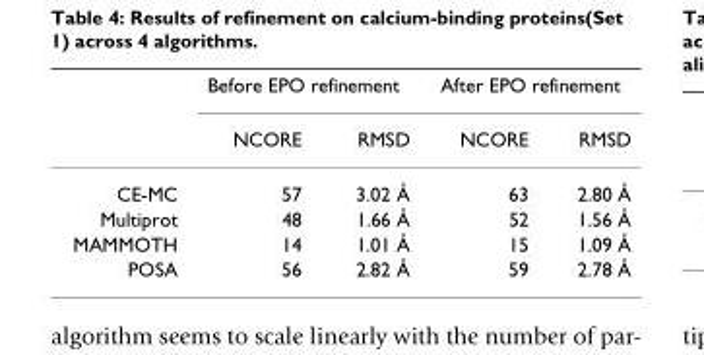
<table><thead><tr><td rowspan="2"></td><td colspan="2">Before EPO refinement</td><td colspan="2">After EPO refinement</td></tr><tr><td>NCORE</td><td>RMSD</td><td>NCORE</td><td>RMSD</td></tr></thead><tbody><tr><td>CE-MC</td><td>57</td><td>3.02 Å</td><td>63</td><td>2.80 Å</td></tr><tr><td>Multiprot</td><td>48</td><td>1.66 Å</td><td>52</td><td>1.56 Å</td></tr><tr><td>MAMMOTH</td><td>14</td><td>1.01 Å</td><td>15</td><td>1.09 Å</td></tr><tr><td>POSA</td><td>56</td><td>2.82 Å</td><td>59</td><td>2.78 Å</td></tr></tbody></table>